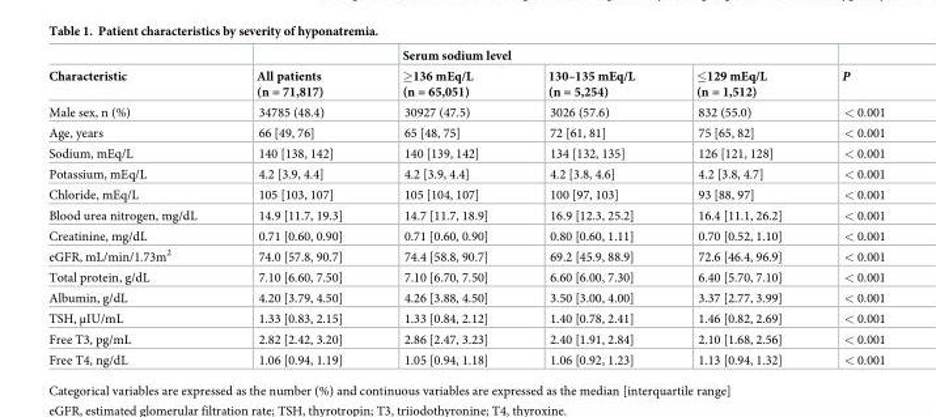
<table><thead><tr><td rowspan="2">Characteristic</td><td rowspan="2">All patients (n = 71,817)</td><td colspan="3">Serum sodium level</td><td rowspan="2">P</td></tr><tr><td>≥136 mEq/L (n = 65,051)</td><td>130–135 mEq/L (n = 5,254)</td><td>≤129 mEq/L (n = 1,512)</td></tr></thead><tbody><tr><td>Male sex, n (%)</td><td>34785 (48.4)</td><td>30927 (47.5)</td><td>3026 (57.6)</td><td>832 (55.0)</td><td>&lt; 0.001</td></tr><tr><td>Age, years</td><td>66 [49, 76]</td><td>65 [48, 75]</td><td>72 [61, 81]</td><td>75 [65, 82]</td><td>&lt; 0.001</td></tr><tr><td>Sodium, mEq/L</td><td>140 [138, 142]</td><td>140 [139, 142]</td><td>134 [132, 135]</td><td>126 [121, 128]</td><td>&lt; 0.001</td></tr><tr><td>Potassium, mEq/L</td><td>4.2 [3.9, 4.4]</td><td>4.2 [3.9, 4.4]</td><td>4.2 [3.8, 4.6]</td><td>4.2 [3.8, 4.7]</td><td>&lt; 0.001</td></tr><tr><td>Chloride, mEq/L</td><td>105 [103, 107]</td><td>105 [104, 107]</td><td>100 [97, 103]</td><td>93 [88, 97]</td><td>&lt; 0.001</td></tr><tr><td>Blood urea nitrogen, mg/dL</td><td>14.9 [11.7, 19.3]</td><td>14.7 [11.7, 18.9]</td><td>16.9 [12.3, 25.2]</td><td>16.4 [11.1, 26.2]</td><td>&lt; 0.001</td></tr><tr><td>Creatinine, mg/dL</td><td>0.71 [0.60, 0.90]</td><td>0.71 [0.60, 0.90]</td><td>0.80 [0.60, 1.11]</td><td>0.70 [0.52, 1.10]</td><td>&lt; 0.001</td></tr><tr><td>eGFR, mL/min/1.73m<sup>2</sup></td><td>74.0 [57.8, 90.7]</td><td>74.4 [58.8, 90.7]</td><td>69.2 [45.9, 88.9]</td><td>72.6 [46.4, 96.9]</td><td>&lt; 0.001</td></tr><tr><td>Total protein, g/dL</td><td>7.10 [6.60, 7.50]</td><td>7.10 [6.70, 7.50]</td><td>6.60 [6.00, 7.30]</td><td>6.40 [5.70, 7.10]</td><td>&lt; 0.001</td></tr><tr><td>Albumin, g/dL</td><td>4.20 [3.79, 4.50]</td><td>4.26 [3.88, 4.50]</td><td>3.50 [3.00, 4.00]</td><td>3.37 [2.77, 3.99]</td><td>&lt; 0.001</td></tr><tr><td>TSH, μIU/mL</td><td>1.33 [0.83, 2.15]</td><td>1.33 [0.84, 2.12]</td><td>1.40 [0.78, 2.41]</td><td>1.46 [0.82, 2.69]</td><td>&lt; 0.001</td></tr><tr><td>Free T3, pg/mL</td><td>2.82 [2.42, 3.20]</td><td>2.86 [2.47, 3.23]</td><td>2.40 [1.91, 2.84]</td><td>2.10 [1.68, 2.56]</td><td>&lt; 0.001</td></tr><tr><td>Free T4, ng/dL</td><td>1.06 [0.94, 1.19]</td><td>1.05 [0.94, 1.18]</td><td>1.06 [0.92, 1.23]</td><td>1.13 [0.94, 1.32]</td><td>&lt; 0.001</td></tr></tbody></table>